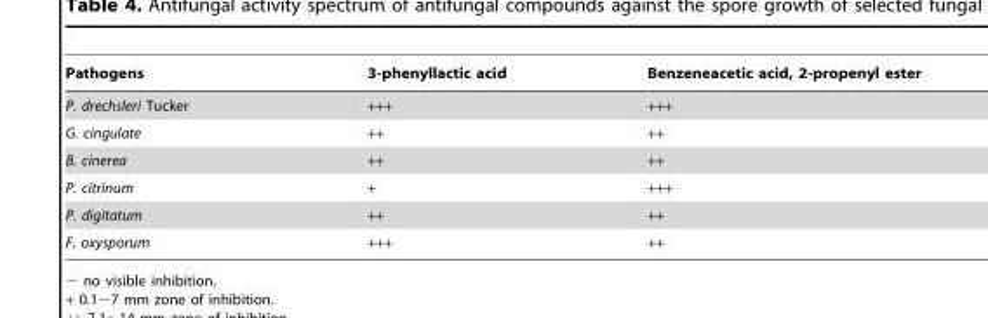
<table><thead><tr><td>Pathogens</td><td>3-phenyllactic acid</td><td>Benzeneacetic acid, 2-propenyl ester</td></tr></thead><tbody><tr><td>P. drechsleri Tucker</td><td>+++</td><td>+++</td></tr><tr><td>G. cingulate</td><td>++</td><td>++</td></tr><tr><td>B. cinerea</td><td>++</td><td>++</td></tr><tr><td>P. citrinum</td><td>+</td><td>+++</td></tr><tr><td>P. digitatum</td><td>++</td><td>++</td></tr><tr><td>F. oxysporum</td><td>+++</td><td>++</td></tr></tbody></table>